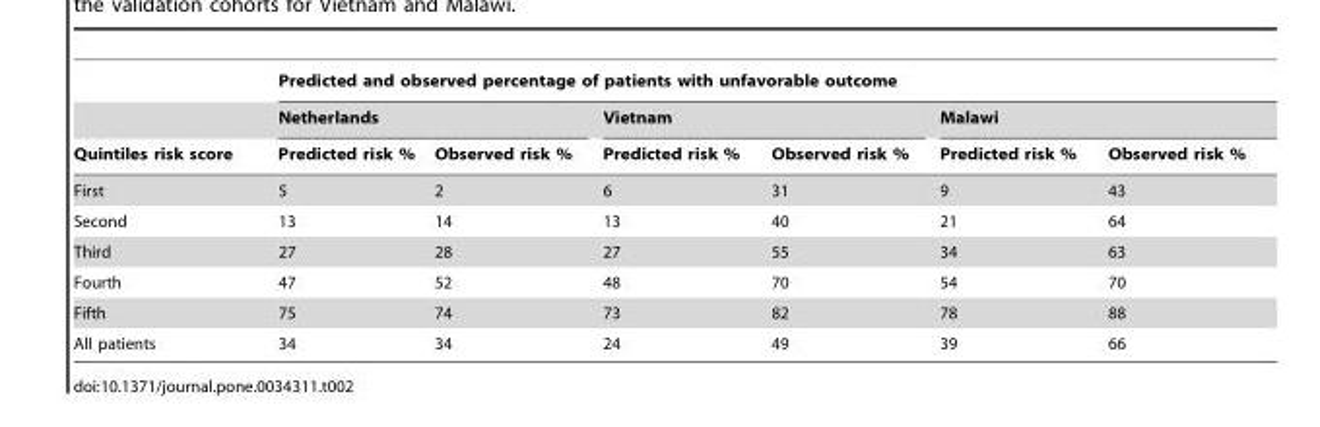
<table><thead><tr><td rowspan="3">Quintiles risk score</td><td colspan="6">Predicted and observed percentage of patients with unfavorable outcome</td></tr><tr><td colspan="2">Netherlands</td><td colspan="2">Vietnam</td><td colspan="2">Malawi</td></tr><tr><td>Predicted risk %</td><td>Observed risk %</td><td>Predicted risk %</td><td>Observed risk %</td><td>Predicted risk %</td><td>Observed risk %</td></tr></thead><tbody><tr><td>First</td><td>5</td><td>2</td><td>6</td><td>31</td><td>9</td><td>43</td></tr><tr><td>Second</td><td>13</td><td>14</td><td>13</td><td>40</td><td>21</td><td>64</td></tr><tr><td>Third</td><td>27</td><td>28</td><td>27</td><td>55</td><td>34</td><td>63</td></tr><tr><td>Fourth</td><td>47</td><td>52</td><td>48</td><td>70</td><td>54</td><td>70</td></tr><tr><td>Fifth</td><td>75</td><td>74</td><td>73</td><td>82</td><td>78</td><td>88</td></tr><tr><td>All patients</td><td>34</td><td>34</td><td>24</td><td>49</td><td>39</td><td>66</td></tr></tbody></table>